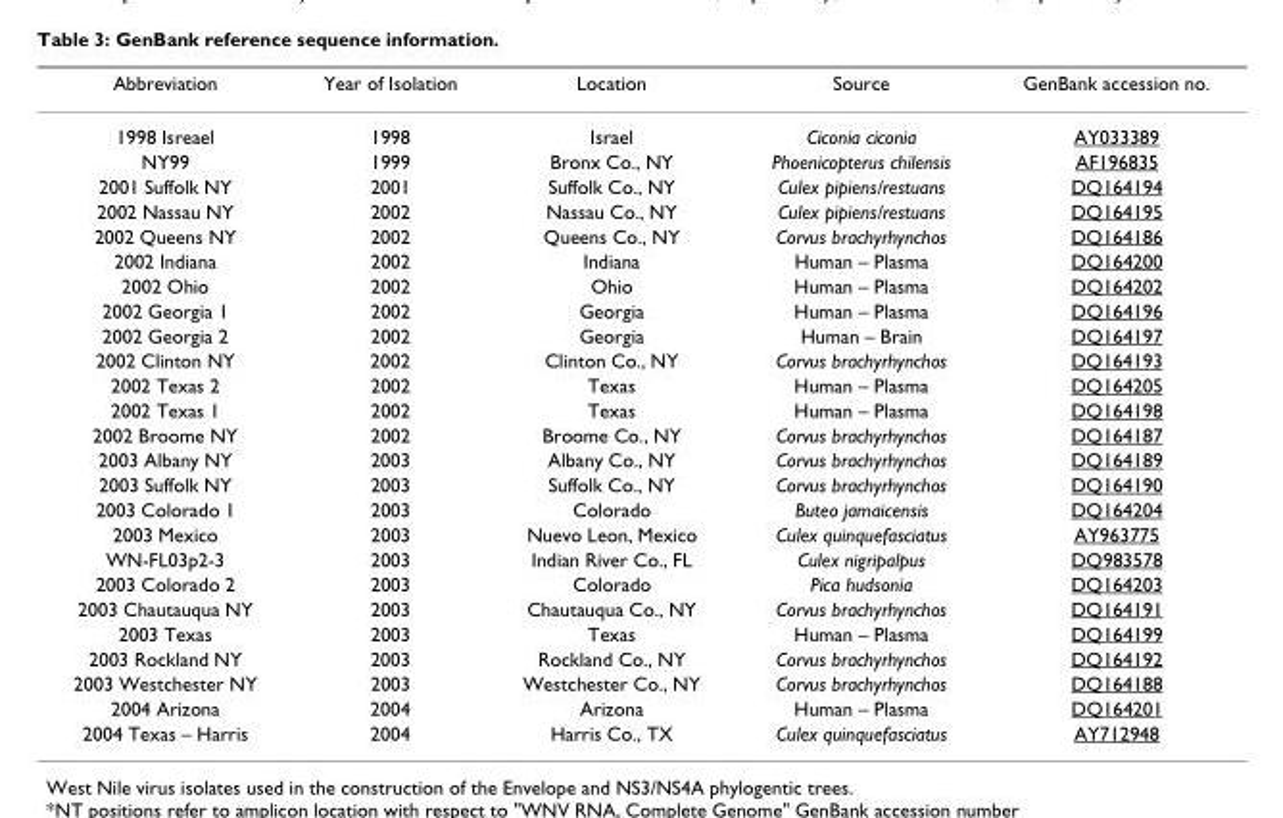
<table><thead><tr><td>Abbreviation</td><td>Year of Isolation</td><td>Location</td><td>Source</td><td>GenBank accession no.</td></tr></thead><tbody><tr><td>1998 Isreael</td><td>1998</td><td>Israel</td><td>Ciconia ciconia</td><td>AY033389</td></tr><tr><td>NY99</td><td>1999</td><td>Bronx Co., NY</td><td>Phoenicopterus chilensis</td><td>AF196835</td></tr><tr><td>2001 Suffolk NY</td><td>2001</td><td>Suffolk Co., NY</td><td>Culex pipiens/restuans</td><td>DQ164194</td></tr><tr><td>2002 Nassau NY</td><td>2002</td><td>Nassau Co., NY</td><td>Culex pipiens/restuans</td><td>DQ164195</td></tr><tr><td>2002 Queens NY</td><td>2002</td><td>Queens Co., NY</td><td>Corvus brachyrhynchos</td><td>DQ164186</td></tr><tr><td>2002 Indiana</td><td>2002</td><td>Indiana</td><td>Human – Plasma</td><td>DQ164200</td></tr><tr><td>2002 Ohio</td><td>2002</td><td>Ohio</td><td>Human – Plasma</td><td>DQ164202</td></tr><tr><td>2002 Georgia 1</td><td>2002</td><td>Georgia</td><td>Human – Plasma</td><td>DQ164196</td></tr><tr><td>2002 Georgia 2</td><td>2002</td><td>Georgia</td><td>Human – Brain</td><td>DQ164197</td></tr><tr><td>2002 Clinton NY</td><td>2002</td><td>Clinton Co., NY</td><td>Corvus brachyrhynchos</td><td>DQ164193</td></tr><tr><td>2002 Texas 2</td><td>2002</td><td>Texas</td><td>Human – Plasma</td><td>DQ164205</td></tr><tr><td>2002 Texas 1</td><td>2002</td><td>Texas</td><td>Human – Plasma</td><td>DQ164198</td></tr><tr><td>2002 Broome NY</td><td>2002</td><td>Broome Co., NY</td><td>Corvus brachyrhynchos</td><td>DQ164187</td></tr><tr><td>2003 Albany NY</td><td>2003</td><td>Albany Co., NY</td><td>Corvus brachyrhynchos</td><td>DQ164189</td></tr><tr><td>2003 Suffolk NY</td><td>2003</td><td>Suffolk Co., NY</td><td>Corvus brachyrhynchos</td><td>DQ164190</td></tr><tr><td>2003 Colorado 1</td><td>2003</td><td>Colorado</td><td>Buteo jamaicensis</td><td>DQ164204</td></tr><tr><td>2003 Mexico</td><td>2003</td><td>Nuevo Leon, Mexico</td><td>Culex quinquefasciatus</td><td>AY963775</td></tr><tr><td>WN-FL03p2-3</td><td>2003</td><td>Indian River Co., FL</td><td>Culex nigripalpus</td><td>DQ983578</td></tr><tr><td>2003 Colorado 2</td><td>2003</td><td>Colorado</td><td>Pica hudsonia</td><td>DQ164203</td></tr><tr><td>2003 Chautauqua NY</td><td>2003</td><td>Chautauqua Co., NY</td><td>Corvus brachyrhynchos</td><td>DQ164191</td></tr><tr><td>2003 Texas</td><td>2003</td><td>Texas</td><td>Human – Plasma</td><td>DQ164199</td></tr><tr><td>2003 Rockland NY</td><td>2003</td><td>Rockland Co., NY</td><td>Corvus brachyrhynchos</td><td>DQ164192</td></tr><tr><td>2003 Westchester NY</td><td>2003</td><td>Westchester Co., NY</td><td>Corvus brachyrhynchos</td><td>DQ164188</td></tr><tr><td>2004 Arizona</td><td>2004</td><td>Arizona</td><td>Human – Plasma</td><td>DQ164201</td></tr><tr><td>2004 Texas – Harris</td><td>2004</td><td>Harris Co., TX</td><td>Culex quinquefasciatus</td><td>AY712948</td></tr></tbody></table>